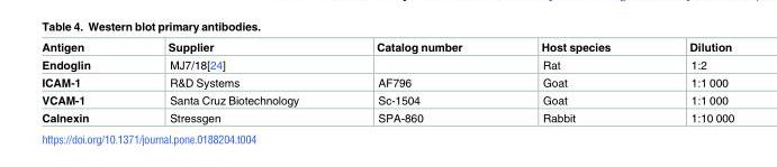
<table><thead><tr><td>Antigen</td><td>Supplier</td><td>Catalog number</td><td>Host species</td><td>Dilution</td></tr></thead><tbody><tr><td>Endoglin</td><td>MJ7/18[24]</td><td></td><td>Rat</td><td>1:2</td></tr><tr><td>ICAM-1</td><td>R&amp;D Systems</td><td>AF796</td><td>Goat</td><td>1:1 000</td></tr><tr><td>VCAM-1</td><td>Santa Cruz Biotechnology</td><td>Sc-1504</td><td>Goat</td><td>1:1 000</td></tr><tr><td>Calnexin</td><td>Stressgen</td><td>SPA-860</td><td>Rabbit</td><td>1:10 000</td></tr></tbody></table>